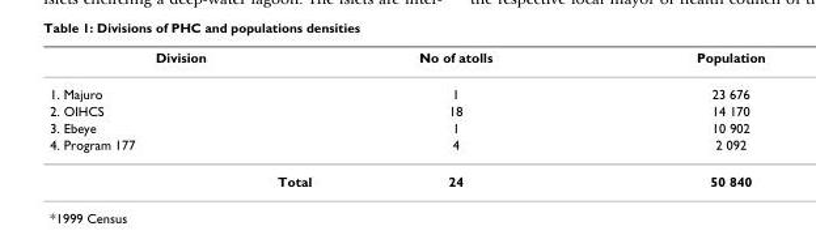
<table><thead><tr><td>Division</td><td>No of atolls</td><td>Population</td></tr></thead><tbody><tr><td>1. Majuro</td><td>1</td><td>23 676</td></tr><tr><td>2. OIHCS</td><td>18</td><td>14 170</td></tr><tr><td>3. Ebeye</td><td>1</td><td>10 902</td></tr><tr><td>4. Program 177</td><td>4</td><td>2 092</td></tr><tr><td>Total</td><td>24</td><td>50 840</td></tr></tbody></table>